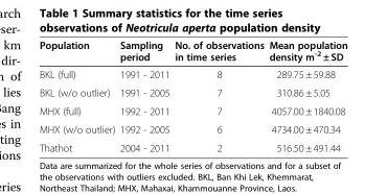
<table><thead><tr><td>Population</td><td>Sampling period</td><td>No. of observations in time series</td><td>Mean population density m<sup>-2</sup> ± SD</td></tr></thead><tbody><tr><td>BKL (full)</td><td>1991 - 2011</td><td>8</td><td>289.75 ± 59.88</td></tr><tr><td>BKL (w/o outlier)</td><td>1991 - 2005</td><td>7</td><td>310.86 ± 5.05</td></tr><tr><td>MHX (full)</td><td>1992 - 2011</td><td>7</td><td>4057.00 ± 1840.08</td></tr><tr><td>MHX (w/o outlier)</td><td>1992 - 2005</td><td>6</td><td>4734.00 ± 470.34</td></tr><tr><td>Thathot</td><td>2004 - 2011</td><td>2</td><td>516.50 ± 491.44</td></tr></tbody></table>